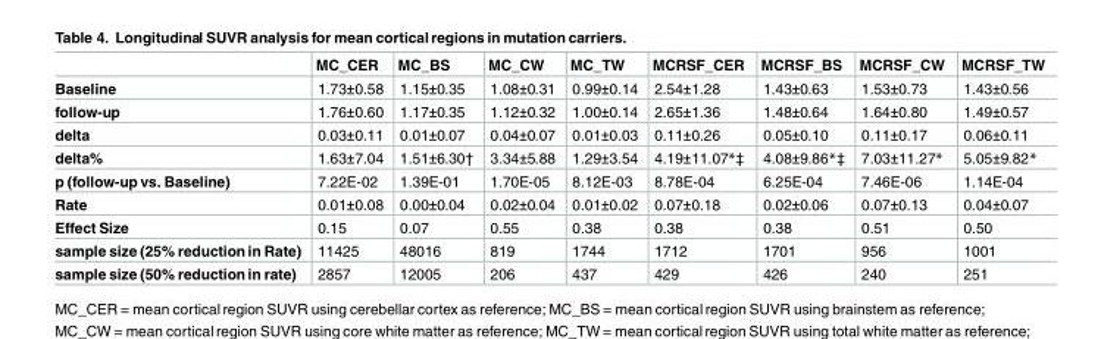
<table><thead><tr><td></td><td>MC_CER</td><td>MC_BS</td><td>MC_CW</td><td>MC_TW</td><td>MCRSF_CER</td><td>MCRSF_BS</td><td>MCRSF_CW</td><td>MCRSF_TW</td></tr></thead><tbody><tr><td>Baseline</td><td>1.73±0.58</td><td>1.15±0.35</td><td>1.08±0.31</td><td>0.99±0.14</td><td>2.54±1.28</td><td>1.43±0.63</td><td>1.53±0.73</td><td>1.43±0.56</td></tr><tr><td>follow-up</td><td>1.76±0.60</td><td>1.17±0.35</td><td>1.12±0.32</td><td>1.00±0.14</td><td>2.65±1.36</td><td>1.48±0.64</td><td>1.64±0.80</td><td>1.49±0.57</td></tr><tr><td>delta</td><td>0.03±0.11</td><td>0.01±0.07</td><td>0.04±0.07</td><td>0.01±0.03</td><td>0.11±0.26</td><td>0.05±0.10</td><td>0.11±0.17</td><td>0.06±0.11</td></tr><tr><td>delta%</td><td>1.63±7.04</td><td>1.51±6.30†</td><td>3.34±5.88</td><td>1.29±3.54</td><td>4.19±11.07*‡</td><td>4.08±9.86*‡</td><td>7.03±11.27*</td><td>5.05±9.82*</td></tr><tr><td>p (follow-up vs. Baseline)</td><td>7.22E-02</td><td>1.39E-01</td><td>1.70E-05</td><td>8.12E-03</td><td>8.78E-04</td><td>6.25E-04</td><td>7.46E-06</td><td>1.14E-04</td></tr><tr><td>Rate</td><td>0.01±0.08</td><td>0.00±0.04</td><td>0.02±0.04</td><td>0.01±0.02</td><td>0.07±0.18</td><td>0.02±0.06</td><td>0.07±0.13</td><td>0.04±0.07</td></tr><tr><td>Effect Size</td><td>0.15</td><td>0.07</td><td>0.55</td><td>0.38</td><td>0.38</td><td>0.38</td><td>0.51</td><td>0.50</td></tr><tr><td>sample size (25% reduction in Rate)</td><td>11425</td><td>48016</td><td>819</td><td>1744</td><td>1712</td><td>1701</td><td>956</td><td>1001</td></tr><tr><td>sample size (50% reduction in rate)</td><td>2857</td><td>12005</td><td>206</td><td>437</td><td>429</td><td>426</td><td>240</td><td>251</td></tr></tbody></table>